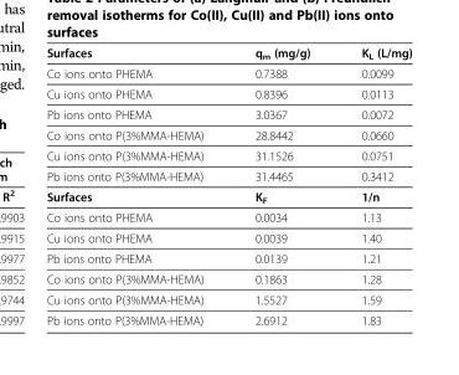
<table><thead><tr><td>Surfaces</td><td>q<sub>m</sub> (mg/g)</td><td>K<sub>L</sub> (L/mg)</td></tr></thead><tbody><tr><td>Co ions onto PHEMA</td><td>0.7388</td><td>0.0099</td></tr><tr><td>Cu ions onto PHEMA</td><td>0.8396</td><td>0.0113</td></tr><tr><td>Pb ions onto PHEMA</td><td>3.0367</td><td>0.0072</td></tr><tr><td>Co ions onto P(3%MMA-HEMA)</td><td>28.8442</td><td>0.0660</td></tr><tr><td>Cu ions onto P(3%MMA-HEMA)</td><td>31.1526</td><td>0.0751</td></tr><tr><td>Pb ions onto P(3%MMA-HEMA)</td><td>31.4465</td><td>0.3412</td></tr><tr><td>Surfaces</td><td>K<sub>F</sub></td><td>1/n</td></tr><tr><td>Co ions onto PHEMA</td><td>0.0034</td><td>1.13</td></tr><tr><td>Cu ions onto PHEMA</td><td>0.0039</td><td>1.40</td></tr><tr><td>Pb ions onto PHEMA</td><td>0.0139</td><td>1.21</td></tr><tr><td>Co ions onto P(3%MMA-HEMA)</td><td>0.1863</td><td>1.28</td></tr><tr><td>Cu ions onto P(3%MMA-HEMA)</td><td>1.5527</td><td>1.59</td></tr><tr><td>Pb ions onto P(3%MMA-HEMA)</td><td>2.6912</td><td>1.83</td></tr></tbody></table>